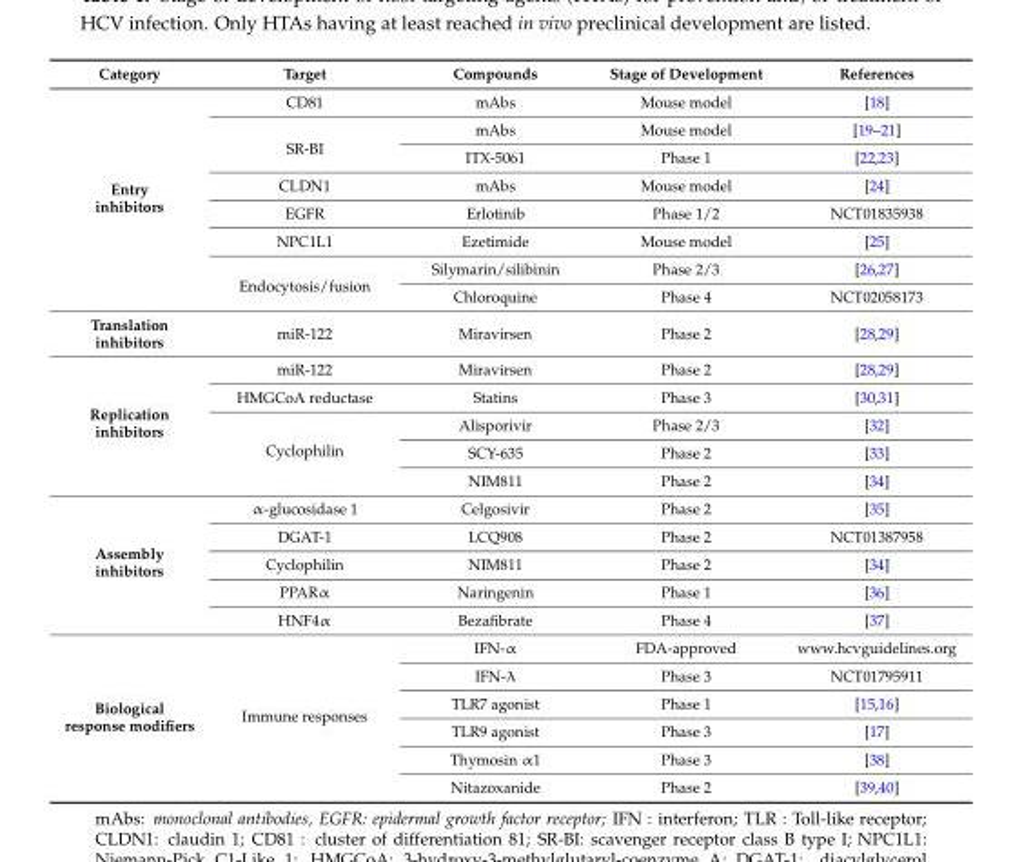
<table><thead><tr><td>Category</td><td>Target</td><td>Compounds</td><td>Stage of Development</td><td>References</td></tr></thead><tbody><tr><td rowspan="8">Entry inhibitors</td><td>CD81</td><td>mAbs</td><td>Mouse model</td><td>[18]</td></tr><tr><td rowspan="2">SR-BI</td><td>mAbs</td><td>Mouse model</td><td>[19–21]</td></tr><tr><td>ITX-5061</td><td>Phase 1</td><td>[22,23]</td></tr><tr><td>CLDN1</td><td>mAbs</td><td>Mouse model</td><td>[24]</td></tr><tr><td>EGFR</td><td>Erlotinib</td><td>Phase 1/2</td><td>NCT01835938</td></tr><tr><td>NPC1L1</td><td>Ezetimide</td><td>Mouse model</td><td>[25]</td></tr><tr><td rowspan="2">Endocytosis/fusion</td><td>Silymarin/silibinin</td><td>Phase 2/3</td><td>[26,27]</td></tr><tr><td>Chloroquine</td><td>Phase 4</td><td>NCT02058173</td></tr><tr><td>Translation inhibitors</td><td>miR-122</td><td>Miravirsen</td><td>Phase 2</td><td>[28,29]</td></tr><tr><td rowspan="5">Replication inhibitors</td><td>miR-122</td><td>Miravirsen</td><td>Phase 2</td><td>[28,29]</td></tr><tr><td>HMGCoA reductase</td><td>Statins</td><td>Phase 3</td><td>[30,31]</td></tr><tr><td rowspan="3">Cyclophilin</td><td>Alisporivir</td><td>Phase 2/3</td><td>[32]</td></tr><tr><td>SCY-635</td><td>Phase 2</td><td>[33]</td></tr><tr><td>NIM811</td><td>Phase 2</td><td>[34]</td></tr><tr><td rowspan="5">Assembly inhibitors</td><td>α-glucosidase 1</td><td>Celgosivir</td><td>Phase 2</td><td>[35]</td></tr><tr><td>DGAT-1</td><td>LCQ908</td><td>Phase 2</td><td>NCT01387958</td></tr><tr><td>Cyclophilin</td><td>NIM811</td><td>Phase 2</td><td>[34]</td></tr><tr><td>PPARα</td><td>Naringenin</td><td>Phase 1</td><td>[36]</td></tr><tr><td>HNF4α</td><td>Bezafibrate</td><td>Phase 4</td><td>[37]</td></tr><tr><td rowspan="6">Biological response modifiers</td><td rowspan="6">Immune responses</td><td>IFN-α</td><td>FDA-approved</td><td>www.hcvguidelines.org</td></tr><tr><td>IFN-λ</td><td>Phase 3</td><td>NCT01795911</td></tr><tr><td>TLR7 agonist</td><td>Phase 1</td><td>[15,16]</td></tr><tr><td>TLR9 agonist</td><td>Phase 3</td><td>[17]</td></tr><tr><td>Thymosin α1</td><td>Phase 3</td><td>[38]</td></tr><tr><td>Nitazoxanide</td><td>Phase 2</td><td>[39,40]</td></tr></tbody></table>